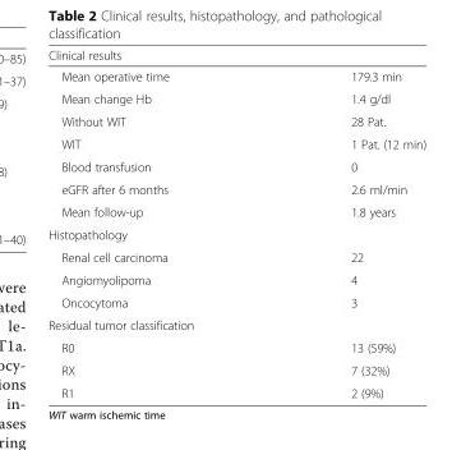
<table><thead><tr><td colspan="2">Clinical results</td></tr><tr><td>Mean operative time</td><td>179.3 min</td></tr></thead><tbody><tr><td>Mean change Hb</td><td>1.4 g/dl</td></tr><tr><td>Without WIT</td><td>28 Pat.</td></tr><tr><td>WIT</td><td>1 Pat. (12 min)</td></tr><tr><td>Blood transfusion</td><td>0</td></tr><tr><td>eGFR after 6 months</td><td>2.6 ml/min</td></tr><tr><td>Mean follow-up</td><td>1.8 years</td></tr><tr><td colspan="2">Histopathology</td></tr><tr><td>Renal cell carcinoma</td><td>22</td></tr><tr><td>Angiomyolipoma</td><td>4</td></tr><tr><td>Oncocytoma</td><td>3</td></tr><tr><td colspan="2">Residual tumor classification</td></tr><tr><td>R0</td><td>13 (59%)</td></tr><tr><td>RX</td><td>7 (32%)</td></tr><tr><td>R1</td><td>2 (9%)</td></tr></tbody></table>